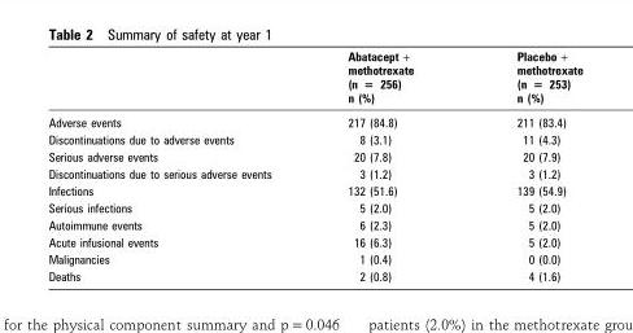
<table><thead><tr><td rowspan="2"></td><td rowspan="2">Abatacept + methotrexate (n = 256) n (%)</td><td rowspan="2">Placebo + methotrexate (n = 253) n (%)</td></tr><tr></tr></thead><tbody><tr><td>Adverse events</td><td>217 (84.8)</td><td>211 (83.4)</td></tr><tr><td>Discontinuations due to adverse events</td><td>8 (3.1)</td><td>11 (4.3)</td></tr><tr><td>Serious adverse events</td><td>20 (7.8)</td><td>20 (7.9)</td></tr><tr><td>Discontinuations due to serious adverse events</td><td>3 (1.2)</td><td>3 (1.2)</td></tr><tr><td>Infections</td><td>132 (51.6)</td><td>139 (54.9)</td></tr><tr><td>Serious infections</td><td>5 (2.0)</td><td>5 (2.0)</td></tr><tr><td>Autoimmune events</td><td>6 (2.3)</td><td>5 (2.0)</td></tr><tr><td>Acute infusional events</td><td>16 (6.3)</td><td>5 (2.0)</td></tr><tr><td>Malignancies</td><td>1 (0.4)</td><td>0 (0.0)</td></tr><tr><td>Deaths</td><td>2 (0.8)</td><td>4 (1.6)</td></tr></tbody></table>